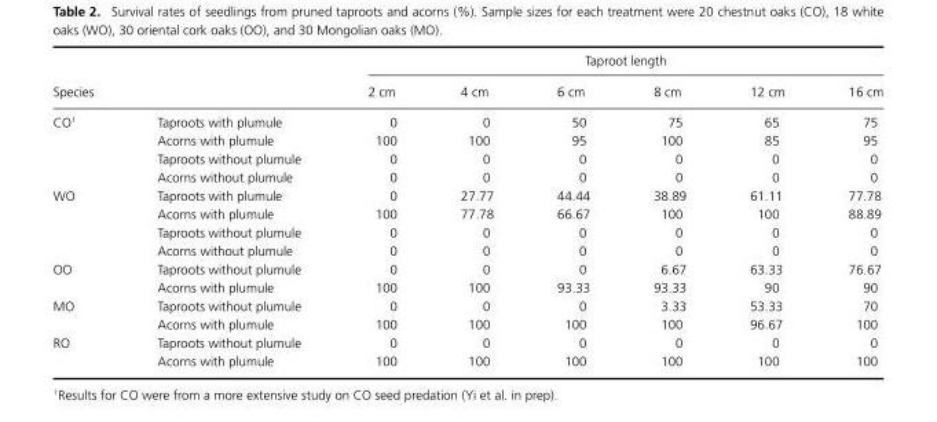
<table><thead><tr><td rowspan="2">Species</td><td rowspan="2"></td><td colspan="6">Taproot length</td></tr><tr><td>2 cm</td><td>4 cm</td><td>6 cm</td><td>8 cm</td><td>12 cm</td><td>16 cm</td></tr></thead><tbody><tr><td rowspan="4">CO<sup>1</sup></td><td>Taproots with plumule</td><td>0</td><td>0</td><td>50</td><td>75</td><td>65</td><td>75</td></tr><tr><td>Acorns with plumule</td><td>100</td><td>100</td><td>95</td><td>100</td><td>85</td><td>95</td></tr><tr><td>Taproots without plumule</td><td>0</td><td>0</td><td>0</td><td>0</td><td>0</td><td>0</td></tr><tr><td>Acorns without plumule</td><td>0</td><td>0</td><td>0</td><td>0</td><td>0</td><td>0</td></tr><tr><td rowspan="4">WO</td><td>Taproots with plumule</td><td>0</td><td>27.77</td><td>44.44</td><td>38.89</td><td>61.11</td><td>77.78</td></tr><tr><td>Acorns with plumule</td><td>100</td><td>77.78</td><td>66.67</td><td>100</td><td>100</td><td>88.89</td></tr><tr><td>Taproots without plumule</td><td>0</td><td>0</td><td>0</td><td>0</td><td>0</td><td>0</td></tr><tr><td>Acorns without plumule</td><td>0</td><td>0</td><td>0</td><td>0</td><td>0</td><td>0</td></tr><tr><td rowspan="2">OO</td><td>Taproots without plumule</td><td>0</td><td>0</td><td>0</td><td>6.67</td><td>63.33</td><td>76.67</td></tr><tr><td>Acorns with plumule</td><td>100</td><td>100</td><td>93.33</td><td>93.33</td><td>90</td><td>90</td></tr><tr><td rowspan="2">MO</td><td>Taproots without plumule</td><td>0</td><td>0</td><td>0</td><td>3.33</td><td>53.33</td><td>70</td></tr><tr><td>Acorns with plumule</td><td>100</td><td>100</td><td>100</td><td>100</td><td>96.67</td><td>100</td></tr><tr><td rowspan="2">RO</td><td>Taproots without plumule</td><td>0</td><td>0</td><td>0</td><td>0</td><td>0</td><td>0</td></tr><tr><td>Acorns with plumule</td><td>100</td><td>100</td><td>100</td><td>100</td><td>100</td><td>100</td></tr></tbody></table>